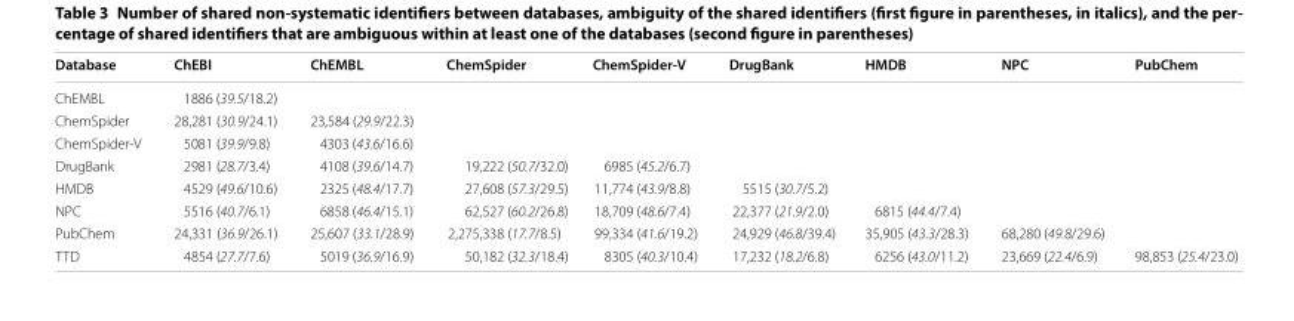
<table><thead><tr><td>Database</td><td>ChEBI</td><td>ChEMBL</td><td>ChemSpider</td><td>ChemSpider‑V</td><td>DrugBank</td><td>HMDB</td><td>NPC</td><td>PubChem</td></tr></thead><tbody><tr><td>ChEMBL</td><td>1886 (39.5/18.2)</td><td></td><td></td><td></td><td></td><td></td><td></td><td></td></tr><tr><td>ChemSpider</td><td>28,281 (30.9/24.1)</td><td>23,584 (29.9/22.3)</td><td></td><td></td><td></td><td></td><td></td><td></td></tr><tr><td>ChemSpider-V</td><td>5081 (39.9/9.8)</td><td>4303 (43.6/16.6)</td><td></td><td></td><td></td><td></td><td></td><td></td></tr><tr><td>DrugBank</td><td>2981 (28.7/3.4)</td><td>4108 (39.6/14.7)</td><td>19,222 (50.7/32.0)</td><td>6985 (45.2/6.7)</td><td></td><td></td><td></td><td></td></tr><tr><td>HMDB</td><td>4529 (49.6/10.6)</td><td>2325 (48.4/17.7)</td><td>27,608 (57.3/29.5)</td><td>11,774 (43.9/8.8)</td><td>5515 (30.7/5.2)</td><td></td><td></td><td></td></tr><tr><td>NPC</td><td>5516 (40.7/6.1)</td><td>6858 (46.4/15.1)</td><td>62,527 (60.2/26.8)</td><td>18,709 (48.6/7.4)</td><td>22,377 (21.9/2.0)</td><td>6815 (44.4/7.4)</td><td></td><td></td></tr><tr><td>PubChem</td><td>24,331 (36.9/26.1)</td><td>25,607 (33.1/28.9)</td><td>2,275,338 (17.7/8.5)</td><td>99,334 (41.6/19.2)</td><td>24,929 (46.8/39.4)</td><td>35,905 (43.3/28.3)</td><td>68,280 (49.8/29.6)</td><td></td></tr><tr><td>TTD</td><td>4854 (27.7/7.6)</td><td>5019 (36.9/16.9)</td><td>50,182 (32.3/18.4)</td><td>8305 (40.3/10.4)</td><td>17,232 (18.2/6.8)</td><td>6256 (43.0/11.2)</td><td>23,669 (22.4/6.9)</td><td>98,853 (25.4/23.0)</td></tr></tbody></table>